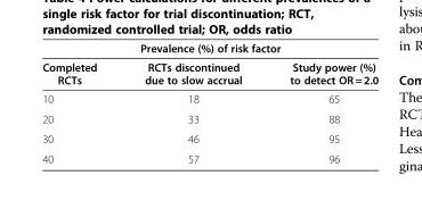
<table><thead><tr><td colspan="3">Prevalence (%) of risk factor</td></tr><tr><td>Completed RCTs</td><td>RCTs discontinued due to slow accrual</td><td>Study power (%) to detect OR = 2.0</td></tr></thead><tbody><tr><td>10</td><td>18</td><td>65</td></tr><tr><td>20</td><td>33</td><td>88</td></tr><tr><td>30</td><td>46</td><td>95</td></tr><tr><td>40</td><td>57</td><td>96</td></tr></tbody></table>